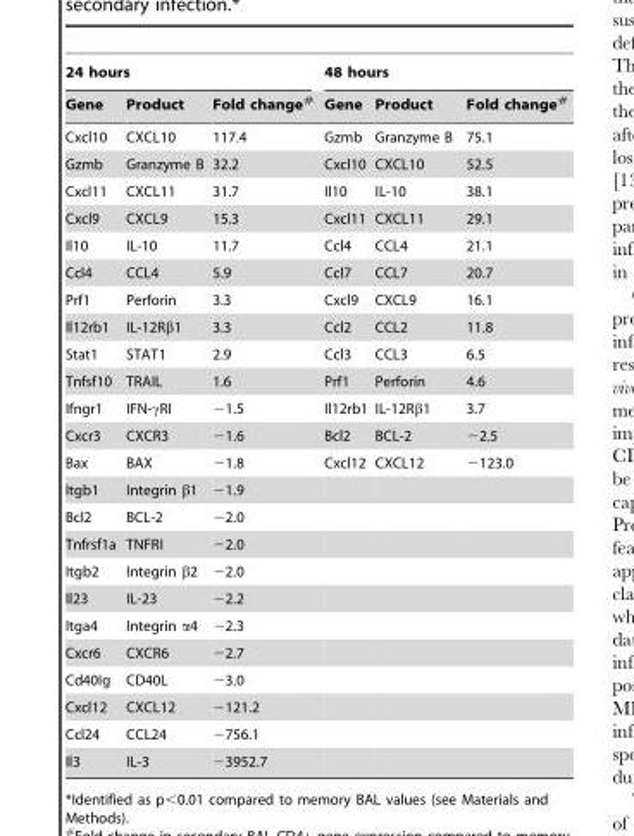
<table><thead><tr><td colspan="3">24 hours</td><td colspan="3">48 hours</td></tr><tr><td>Gene</td><td>Product</td><td>Fold change#</td><td>Gene</td><td>Product</td><td>Fold change#</td></tr></thead><tbody><tr><td>Cxcl10</td><td>CXCL10</td><td>117.4</td><td>Gzmb</td><td>Granzyme B</td><td>75.1</td></tr><tr><td>Gzmb</td><td>Granzyme B</td><td>32.2</td><td>Cxcl10</td><td>CXCL10</td><td>52.5</td></tr><tr><td>Cxcl11</td><td>CXCL11</td><td>31.7</td><td>Il10</td><td>IL-10</td><td>38.1</td></tr><tr><td>Cxcl9</td><td>CXCL9</td><td>15.3</td><td>Cxcl11</td><td>CXCL11</td><td>29.1</td></tr><tr><td>Il10</td><td>IL-10</td><td>11.7</td><td>Ccl4</td><td>CCL4</td><td>21.1</td></tr><tr><td>Ccl4</td><td>CCL4</td><td>5.9</td><td>Ccl7</td><td>CCL7</td><td>20.7</td></tr><tr><td>Prf1</td><td>Perforin</td><td>3.3</td><td>Cxcl9</td><td>CXCL9</td><td>16.1</td></tr><tr><td>Il12rb1</td><td>IL-12Rβ1</td><td>3.3</td><td>Ccl2</td><td>CCL2</td><td>11.8</td></tr><tr><td>Stat1</td><td>STAT1</td><td>2.9</td><td>Ccl3</td><td>CCL3</td><td>6.5</td></tr><tr><td>Tnfsf10</td><td>TRAIL</td><td>1.6</td><td>Prf1</td><td>Perforin</td><td>4.6</td></tr><tr><td>Ifngr1</td><td>IFN-γRI</td><td>−1.5</td><td>Il12rb1</td><td>IL-12Rβ1</td><td>3.7</td></tr><tr><td>Cxcr3</td><td>CXCR3</td><td>−1.6</td><td>Bcl2</td><td>BCL-2</td><td>−2.5</td></tr><tr><td>Bax</td><td>BAX</td><td>−1.8</td><td>Cxcl12</td><td>CXCL12</td><td>−123.0</td></tr><tr><td>Itgb1</td><td>Integrin β1</td><td>−1.9</td><td></td><td></td><td></td></tr><tr><td>Bcl2</td><td>BCL-2</td><td>−2.0</td><td></td><td></td><td></td></tr><tr><td>Tnfrsf1a</td><td>TNFRI</td><td>−2.0</td><td></td><td></td><td></td></tr><tr><td>Itgb2</td><td>Integrin β2</td><td>−2.0</td><td></td><td></td><td></td></tr><tr><td>Il23</td><td>IL-23</td><td>−2.2</td><td></td><td></td><td></td></tr><tr><td>Itga4</td><td>Integrin α4</td><td>−2.3</td><td></td><td></td><td></td></tr><tr><td>Cxcr6</td><td>CXCR6</td><td>−2.7</td><td></td><td></td><td></td></tr><tr><td>Cd40Ig</td><td>CD40L</td><td>−3.0</td><td></td><td></td><td></td></tr><tr><td>Cxcl12</td><td>CXCL12</td><td>−121.2</td><td></td><td></td><td></td></tr><tr><td>Ccl24</td><td>CCL24</td><td>−756.1</td><td></td><td></td><td></td></tr><tr><td>Il3</td><td>IL-3</td><td>−3952.7</td><td></td><td></td><td></td></tr></tbody></table>